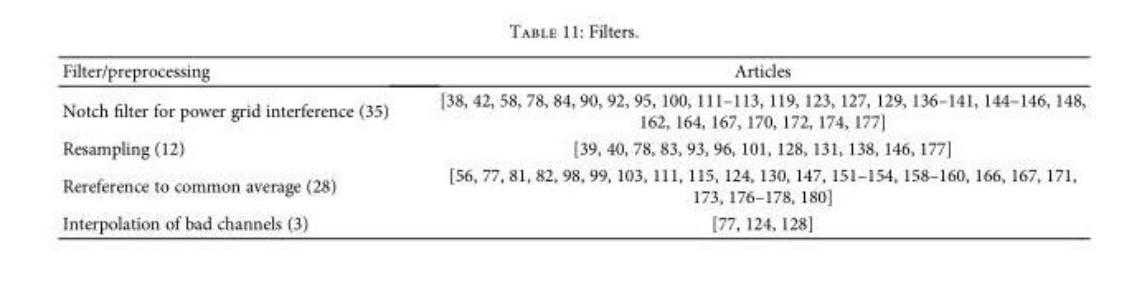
<table><thead><tr><td>Filter/preprocessing</td><td>Articles</td></tr></thead><tbody><tr><td>Notch filter for power grid interference (35)</td><td>[38, 42, 58, 78, 84, 90, 92, 95, 100, 111–113, 119, 123, 127, 129, 136–141, 144–146, 148, 162, 164, 167, 170, 172, 174, 177]</td></tr><tr><td>Resampling (12)</td><td>[39, 40, 78, 83, 93, 96, 101, 128, 131, 138, 146, 177]</td></tr><tr><td>Rereference to common average (28)</td><td>[56, 77, 81, 82, 98, 99, 103, 111, 115, 124, 130, 147, 151–154, 158–160, 166, 167, 171, 173, 176–178, 180]</td></tr><tr><td>Interpolation of bad channels (3)</td><td>[77, 124, 128]</td></tr></tbody></table>